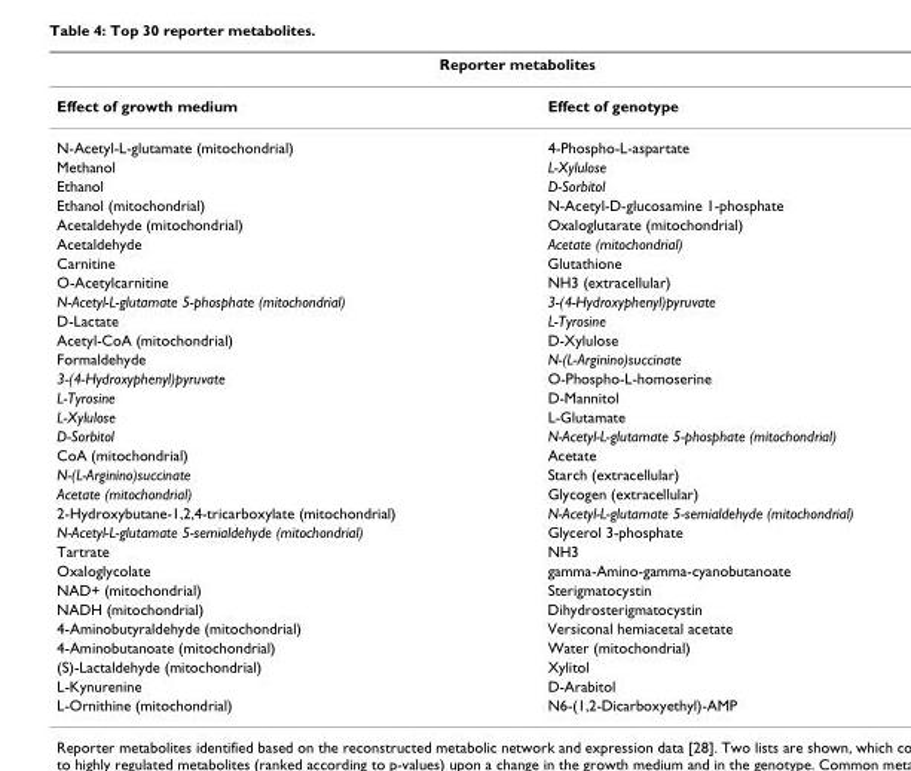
<table><thead><tr><td colspan="2">Reporter metabolites</td></tr><tr><td>Effect of growth medium</td><td>Effect of genotype</td></tr></thead><tbody><tr><td>N-Acetyl-L-glutamate (mitochondrial)</td><td>4-Phospho-L-aspartate</td></tr><tr><td>Methanol</td><td>L-Xylulose</td></tr><tr><td>Ethanol</td><td>D-Sorbitol</td></tr><tr><td>Ethanol (mitochondrial)</td><td>N-Acetyl-D-glucosamine 1-phosphate</td></tr><tr><td>Acetaldehyde (mitochondrial)</td><td>Oxaloglutarate (mitochondrial)</td></tr><tr><td>Acetaldehyde</td><td>Acetate (mitochondrial)</td></tr><tr><td>Carnitine</td><td>Glutathione</td></tr><tr><td>O-Acetylcarnitine</td><td>NH3 (extracellular)</td></tr><tr><td>N-Acetyl-L-glutamate 5-phosphate (mitochondrial)</td><td>3-(4-Hydroxyphenyl)pyruvate</td></tr><tr><td>D-Lactate</td><td>L-Tyrosine</td></tr><tr><td>Acetyl-CoA (mitochondrial)</td><td>D-Xylulose</td></tr><tr><td>Formaldehyde</td><td>N-(L-Arginino)succinate</td></tr><tr><td>3-(4-Hydroxyphenyl)pyruvate</td><td>O-Phospho-L-homoserine</td></tr><tr><td>L-Tyrosine</td><td>D-Mannitol</td></tr><tr><td>L-Xylulose</td><td>L-Glutamate</td></tr><tr><td>D-Sorbitol</td><td>N-Acetyl-L-glutamate 5-phosphate (mitochondrial)</td></tr><tr><td>CoA (mitochondrial)</td><td>Acetate</td></tr><tr><td>N-(L-Arginino)succinate</td><td>Starch (extracellular)</td></tr><tr><td>Acetate (mitochondrial)</td><td>Glycogen (extracellular)</td></tr><tr><td>2-Hydroxybutane-1,2,4-tricarboxylate (mitochondrial)</td><td>N-Acetyl-L-glutamate 5-semialdehyde (mitochondrial)</td></tr><tr><td>N-Acetyl-L-glutamate 5-semialdehyde (mitochondrial)</td><td>Glycerol 3-phosphate</td></tr><tr><td>Tartrate</td><td>NH3</td></tr><tr><td>Oxaloglycolate</td><td>gamma-Amino-gamma-cyanobutanoate</td></tr><tr><td>NAD+ (mitochondrial)</td><td>Sterigmatocystin</td></tr><tr><td>NADH (mitochondrial)</td><td>Dihydrosterigmatocystin</td></tr><tr><td>4-Aminobutyraldehyde (mitochondrial)</td><td>Versiconal hemiacetal acetate</td></tr><tr><td>4-Aminobutanoate (mitochondrial)</td><td>Water (mitochondrial)</td></tr><tr><td>(S)-Lactaldehyde (mitochondrial)</td><td>Xylitol</td></tr><tr><td>L-Kynurenine</td><td>D-Arabitol</td></tr><tr><td>L-Ornithine (mitochondrial)</td><td>N6-(1,2-Dicarboxyethyl)-AMP</td></tr></tbody></table>